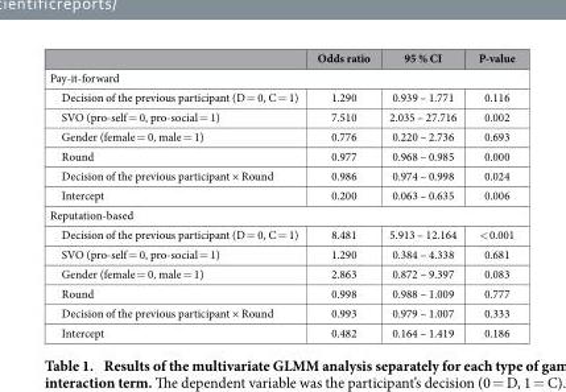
<table><thead><tr><td></td><td>Odds ratio</td><td>95 % CI</td><td>P-value</td></tr></thead><tbody><tr><td colspan="4">Pay-it-forward</td></tr><tr><td>Decision of the previous participant (D = 0, C = 1)</td><td>1.290</td><td>0.939 – 1.771</td><td>0.116</td></tr><tr><td>SVO (pro-self = 0, pro-social = 1)</td><td>7.510</td><td>2.035 – 27.716</td><td>0.002</td></tr><tr><td>Gender (female = 0, male = 1)</td><td>0.776</td><td>0.220 – 2.736</td><td>0.693</td></tr><tr><td>Round</td><td>0.977</td><td>0.968 – 0.985</td><td>0.000</td></tr><tr><td>Decision of the previous participant × Round</td><td>0.986</td><td>0.974 – 0.998</td><td>0.024</td></tr><tr><td>Intercept</td><td>0.200</td><td>0.063 – 0.635</td><td>0.006</td></tr><tr><td colspan="4">Reputation-based</td></tr><tr><td>Decision of the previous participant (D = 0, C = 1)</td><td>8.481</td><td>5.913 – 12.164</td><td>&lt; 0.001</td></tr><tr><td>SVO (pro-self = 0, pro-social = 1)</td><td>1.290</td><td>0.384 – 4.338</td><td>0.681</td></tr><tr><td>Gender (female = 0, male = 1)</td><td>2.863</td><td>0.872 – 9.397</td><td>0.083</td></tr><tr><td>Round</td><td>0.998</td><td>0.988 – 1.009</td><td>0.777</td></tr><tr><td>Decision of the previous participant × Round</td><td>0.993</td><td>0.979 – 1.007</td><td>0.333</td></tr><tr><td>Intercept</td><td>0.482</td><td>0.164 – 1.419</td><td>0.186</td></tr></tbody></table>